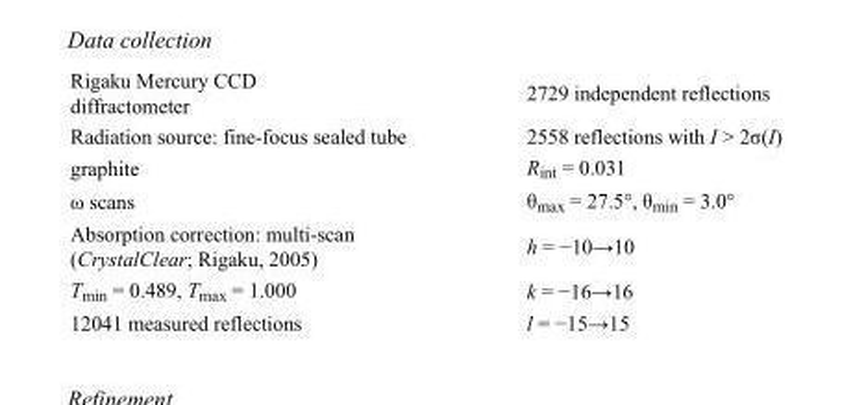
<table><tbody><tr><td>Rigaku Mercury CCD diffractometer</td><td>2729 independent reflections</td></tr><tr><td>Radiation source: fine-focus sealed tube</td><td>2558 reflections with I &gt; 2σ(I)</td></tr><tr><td>graphite</td><td>R<sub>int</sub> = 0.031</td></tr><tr><td>ω scans</td><td>θ<sub>max</sub> = 27.5°, θ<sub>min</sub> = 3.0°</td></tr><tr><td>Absorption correction: multi-scan (CrystalClear; Rigaku, 2005)</td><td>h = −10→10</td></tr><tr><td>T<sub>min</sub> = 0.489, T<sub>max</sub> = 1.000</td><td>k = −16→16</td></tr><tr><td>12041 measured reflections</td><td>l = −15→15</td></tr></tbody></table>